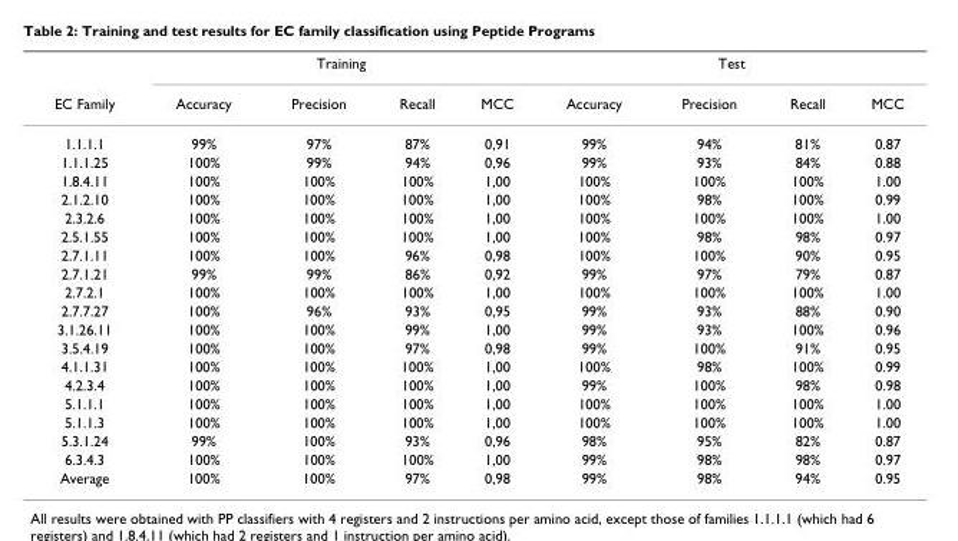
<table><thead><tr><td rowspan="2">EC Family</td><td colspan="4">Training</td><td colspan="4">Test</td></tr><tr><td>Accuracy</td><td>Precision</td><td>Recall</td><td>MCC</td><td>Accuracy</td><td>Precision</td><td>Recall</td><td>MCC</td></tr></thead><tbody><tr><td>1.1.1.1</td><td>99%</td><td>97%</td><td>87%</td><td>0,91</td><td>99%</td><td>94%</td><td>81%</td><td>0.87</td></tr><tr><td>1.1.1.25</td><td>100%</td><td>99%</td><td>94%</td><td>0,96</td><td>99%</td><td>93%</td><td>84%</td><td>0.88</td></tr><tr><td>1.8.4.11</td><td>100%</td><td>100%</td><td>100%</td><td>1,00</td><td>100%</td><td>100%</td><td>100%</td><td>1.00</td></tr><tr><td>2.1.2.10</td><td>100%</td><td>100%</td><td>100%</td><td>1,00</td><td>100%</td><td>98%</td><td>100%</td><td>0.99</td></tr><tr><td>2.3.2.6</td><td>100%</td><td>100%</td><td>100%</td><td>1,00</td><td>100%</td><td>100%</td><td>100%</td><td>1.00</td></tr><tr><td>2.5.1.55</td><td>100%</td><td>100%</td><td>100%</td><td>1,00</td><td>100%</td><td>98%</td><td>98%</td><td>0.97</td></tr><tr><td>2.7.1.11</td><td>100%</td><td>100%</td><td>96%</td><td>0,98</td><td>100%</td><td>100%</td><td>90%</td><td>0.95</td></tr><tr><td>2.7.1.21</td><td>99%</td><td>99%</td><td>86%</td><td>0,92</td><td>99%</td><td>97%</td><td>79%</td><td>0.87</td></tr><tr><td>2.7.2.1</td><td>100%</td><td>100%</td><td>100%</td><td>1,00</td><td>100%</td><td>100%</td><td>100%</td><td>1.00</td></tr><tr><td>2.7.7.27</td><td>100%</td><td>96%</td><td>93%</td><td>0,95</td><td>99%</td><td>93%</td><td>88%</td><td>0.90</td></tr><tr><td>3.1.26.11</td><td>100%</td><td>100%</td><td>99%</td><td>1,00</td><td>99%</td><td>93%</td><td>100%</td><td>0.96</td></tr><tr><td>3.5.4.19</td><td>100%</td><td>100%</td><td>97%</td><td>0,98</td><td>99%</td><td>100%</td><td>91%</td><td>0.95</td></tr><tr><td>4.1.1.31</td><td>100%</td><td>100%</td><td>100%</td><td>1,00</td><td>100%</td><td>98%</td><td>100%</td><td>0.99</td></tr><tr><td>4.2.3.4</td><td>100%</td><td>100%</td><td>100%</td><td>1,00</td><td>99%</td><td>100%</td><td>98%</td><td>0.98</td></tr><tr><td>5.1.1.1</td><td>100%</td><td>100%</td><td>100%</td><td>1,00</td><td>100%</td><td>100%</td><td>100%</td><td>1.00</td></tr><tr><td>5.1.1.3</td><td>100%</td><td>100%</td><td>100%</td><td>1,00</td><td>100%</td><td>100%</td><td>100%</td><td>1.00</td></tr><tr><td>5.3.1.24</td><td>99%</td><td>100%</td><td>93%</td><td>0,96</td><td>98%</td><td>95%</td><td>82%</td><td>0.87</td></tr><tr><td>6.3.4.3</td><td>100%</td><td>100%</td><td>100%</td><td>1,00</td><td>99%</td><td>98%</td><td>98%</td><td>0.97</td></tr><tr><td>Average</td><td>100%</td><td>100%</td><td>97%</td><td>0,98</td><td>99%</td><td>98%</td><td>94%</td><td>0.95</td></tr></tbody></table>